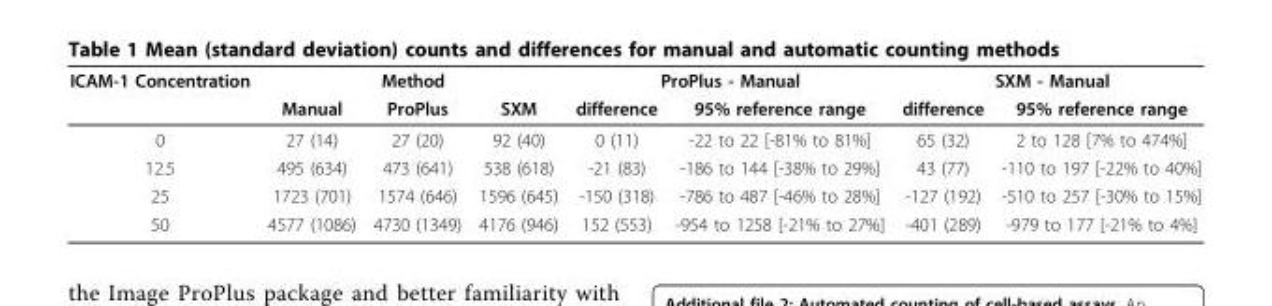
<table><thead><tr><td rowspan="2">ICAM-1 Concentration</td><td colspan="3">Method</td><td colspan="2">ProPlus - Manual</td><td colspan="2">SXM - Manual</td></tr><tr><td>Manual</td><td>ProPlus</td><td>SXM</td><td>difference</td><td>95% reference range</td><td>difference</td><td>95% reference range</td></tr></thead><tbody><tr><td>0</td><td>27 (14)</td><td>27 (20)</td><td>92 (40)</td><td>0 (11)</td><td>-22 to 22 [-81% to 81%]</td><td>65 (32)</td><td>2 to 128 [7% to 474%]</td></tr><tr><td>12.5</td><td>495 (634)</td><td>473 (641)</td><td>538 (618)</td><td>-21 (83)</td><td>-186 to 144 [-38% to 29%]</td><td>43 (77)</td><td>-110 to 197 [-22% to 40%]</td></tr><tr><td>25</td><td>1723 (701)</td><td>1574 (646)</td><td>1596 (645)</td><td>-150 (318)</td><td>-786 to 487 [-46% to 28%]</td><td>-127 (192)</td><td>-510 to 257 [-30% to 15%]</td></tr><tr><td>50</td><td>4577 (1086)</td><td>4730 (1349)</td><td>4176 (946)</td><td>152 (553)</td><td>-954 to 1258 [-21% to 27%]</td><td>-401 (289)</td><td>-979 to 177 [-21% to 4%]</td></tr></tbody></table>